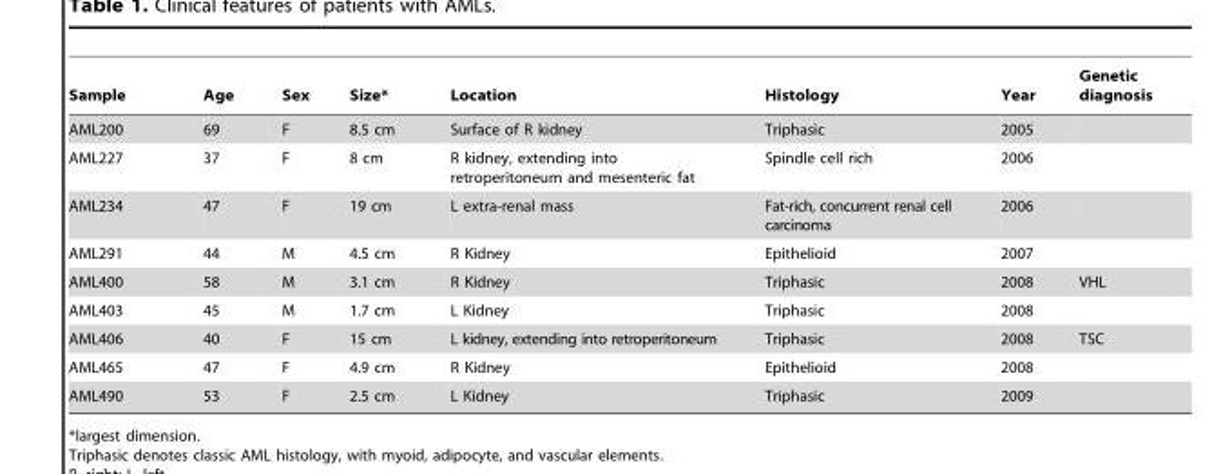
<table><thead><tr><td>Sample</td><td>Age</td><td>Sex</td><td>Size*</td><td>Location</td><td>Histology</td><td>Year</td><td>Genetic diagnosis</td></tr></thead><tbody><tr><td>AML200</td><td>69</td><td>F</td><td>8.5 cm</td><td>Surface of R kidney</td><td>Triphasic</td><td>2005</td><td></td></tr><tr><td>AML227</td><td>37</td><td>F</td><td>8 cm</td><td>R kidney, extending into retroperitoneum and mesenteric fat</td><td>Spindle cell rich</td><td>2006</td><td></td></tr><tr><td>AML234</td><td>47</td><td>F</td><td>19 cm</td><td>L extra-renal mass</td><td>Fat-rich, concurrent renal cell carcinoma</td><td>2006</td><td></td></tr><tr><td>AML291</td><td>44</td><td>M</td><td>4.5 cm</td><td>R Kidney</td><td>Epithelioid</td><td>2007</td><td></td></tr><tr><td>AML400</td><td>58</td><td>M</td><td>3.1 cm</td><td>R Kidney</td><td>Triphasic</td><td>2008</td><td>VHL</td></tr><tr><td>AML403</td><td>45</td><td>M</td><td>1.7 cm</td><td>L Kidney</td><td>Triphasic</td><td>2008</td><td></td></tr><tr><td>AML406</td><td>40</td><td>F</td><td>15 cm</td><td>L kidney, extending into retroperitoneum</td><td>Triphasic</td><td>2008</td><td>TSC</td></tr><tr><td>AML465</td><td>47</td><td>F</td><td>4.9 cm</td><td>R Kidney</td><td>Epithelioid</td><td>2008</td><td></td></tr><tr><td>AML490</td><td>53</td><td>F</td><td>2.5 cm</td><td>L Kidney</td><td>Triphasic</td><td>2009</td><td></td></tr></tbody></table>